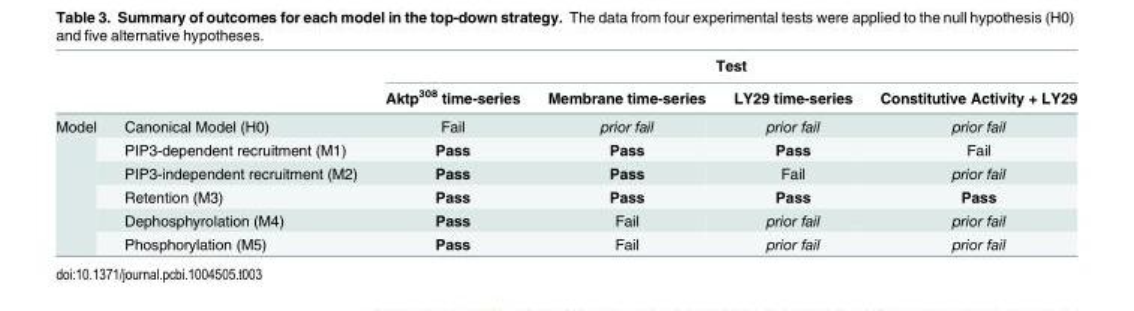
<table><thead><tr><td rowspan="2"></td><td rowspan="2"></td><td colspan="4">Test</td></tr><tr><td>Aktp<sup>308</sup> time-series</td><td>Membrane time-series</td><td>LY29 time-series</td><td>Constitutive Activity + LY29</td></tr></thead><tbody><tr><td rowspan="6">Model</td><td>Canonical Model (H0)</td><td>Fail</td><td>prior fail</td><td>prior fail</td><td>prior fail</td></tr><tr><td>PIP3-dependent recruitment (M1)</td><td>Pass</td><td>Pass</td><td>Pass</td><td>Fail</td></tr><tr><td>PIP3-independent recruitment (M2)</td><td>Pass</td><td>Pass</td><td>Fail</td><td>prior fail</td></tr><tr><td>Retention (M3)</td><td>Pass</td><td>Pass</td><td>Pass</td><td>Pass</td></tr><tr><td>Dephosphyrolation (M4)</td><td>Pass</td><td>Fail</td><td>prior fail</td><td>prior fail</td></tr><tr><td>Phosphorylation (M5)</td><td>Pass</td><td>Fail</td><td>prior fail</td><td>prior fail</td></tr></tbody></table>